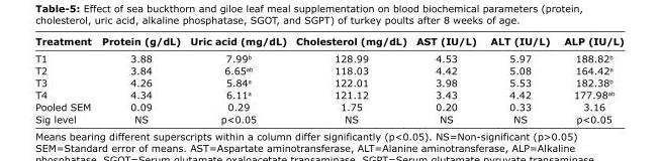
<table><thead><tr><td>Treatment</td><td>Protein (g/dL)</td><td>Uric acid (mg/dL)</td><td>Cholesterol (mg/dL)</td><td>AST (IU/L)</td><td>ALT (IU/L)</td><td>ALP (IU/L)</td></tr></thead><tbody><tr><td>T1</td><td>3.88</td><td>7.99<sup>b</sup></td><td>128.99</td><td>4.53</td><td>5.97</td><td>188.82<sup>b</sup></td></tr><tr><td>T2</td><td>3.84</td><td>6.65<sup>ab</sup></td><td>118.03</td><td>4.42</td><td>5.08</td><td>164.42<sup>a</sup></td></tr><tr><td>T3</td><td>4.26</td><td>5.84<sup>a</sup></td><td>122.01</td><td>3.98</td><td>5.53</td><td>182.38<sup>b</sup></td></tr><tr><td>T4</td><td>4.34</td><td>6.11<sup>a</sup></td><td>121.12</td><td>3.43</td><td>4.42</td><td>177.98<sup>ab</sup></td></tr><tr><td>Pooled SEM</td><td>0.09</td><td>0.29</td><td>1.75</td><td>0.20</td><td>0.33</td><td>3.16</td></tr><tr><td>Sig level</td><td>NS</td><td>p&lt;0.05</td><td>NS</td><td>NS</td><td>NS</td><td>p&lt;0.05</td></tr></tbody></table>